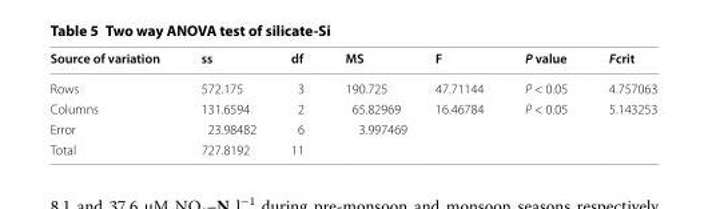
<table><thead><tr><td>Source of variation</td><td>ss</td><td>df</td><td>MS</td><td>F</td><td>P value</td><td>Fcrit</td></tr></thead><tbody><tr><td>Rows</td><td>572.175</td><td>3</td><td>190.725</td><td>47.71144</td><td>P &lt; 0.05</td><td>4.757063</td></tr><tr><td>Columns</td><td>131.6594</td><td>2</td><td>65.82969</td><td>16.46784</td><td>P &lt; 0.05</td><td>5.143253</td></tr><tr><td>Error</td><td>23.98482</td><td>6</td><td>3.997469</td><td></td><td></td><td></td></tr><tr><td>Total</td><td>727.8192</td><td>11</td><td></td><td></td><td></td><td></td></tr></tbody></table>